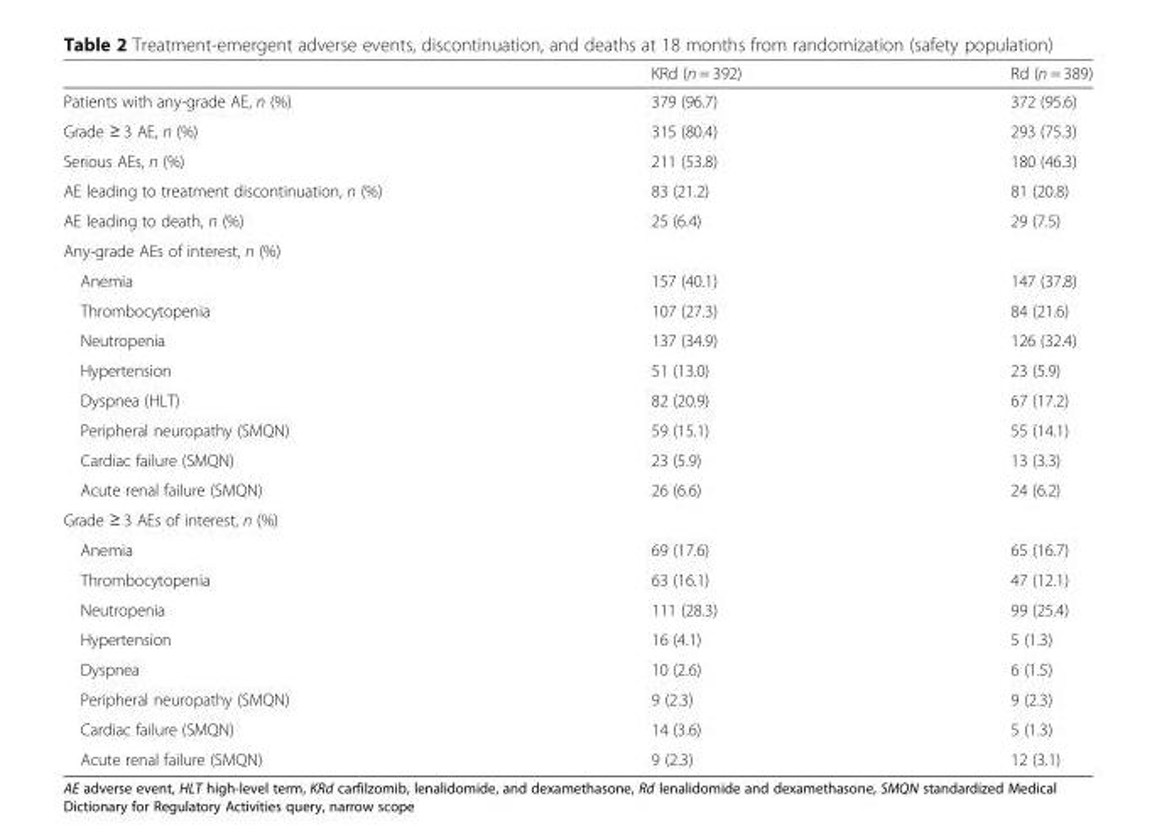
<table><thead><tr><td></td><td>KRd (n = 392)</td><td>Rd (n = 389)</td></tr></thead><tbody><tr><td>Patients with any-grade AE, n (%)</td><td>379 (96.7)</td><td>372 (95.6)</td></tr><tr><td>Grade ≥ 3 AE, n (%)</td><td>315 (80.4)</td><td>293 (75.3)</td></tr><tr><td>Serious AEs, n (%)</td><td>211 (53.8)</td><td>180 (46.3)</td></tr><tr><td>AE leading to treatment discontinuation, n (%)</td><td>83 (21.2)</td><td>81 (20.8)</td></tr><tr><td>AE leading to death, n (%)</td><td>25 (6.4)</td><td>29 (7.5)</td></tr><tr><td colspan="3">Any-grade AEs of interest, n (%)</td></tr><tr><td>Anemia</td><td>157 (40.1)</td><td>147 (37.8)</td></tr><tr><td>Thrombocytopenia</td><td>107 (27.3)</td><td>84 (21.6)</td></tr><tr><td>Neutropenia</td><td>137 (34.9)</td><td>126 (32.4)</td></tr><tr><td>Hypertension</td><td>51 (13.0)</td><td>23 (5.9)</td></tr><tr><td>Dyspnea (HLT)</td><td>82 (20.9)</td><td>67 (17.2)</td></tr><tr><td>Peripheral neuropathy (SMQN)</td><td>59 (15.1)</td><td>55 (14.1)</td></tr><tr><td>Cardiac failure (SMQN)</td><td>23 (5.9)</td><td>13 (3.3)</td></tr><tr><td>Acute renal failure (SMQN)</td><td>26 (6.6)</td><td>24 (6.2)</td></tr><tr><td colspan="3">Grade ≥ 3 AEs of interest, n (%)</td></tr><tr><td>Anemia</td><td>69 (17.6)</td><td>65 (16.7)</td></tr><tr><td>Thrombocytopenia</td><td>63 (16.1)</td><td>47 (12.1)</td></tr><tr><td>Neutropenia</td><td>111 (28.3)</td><td>99 (25.4)</td></tr><tr><td>Hypertension</td><td>16 (4.1)</td><td>5 (1.3)</td></tr><tr><td>Dyspnea</td><td>10 (2.6)</td><td>6 (1.5)</td></tr><tr><td>Peripheral neuropathy (SMQN)</td><td>9 (2.3)</td><td>9 (2.3)</td></tr><tr><td>Cardiac failure (SMQN)</td><td>14 (3.6)</td><td>5 (1.3)</td></tr><tr><td>Acute renal failure (SMQN)</td><td>9 (2.3)</td><td>12 (3.1)</td></tr></tbody></table>